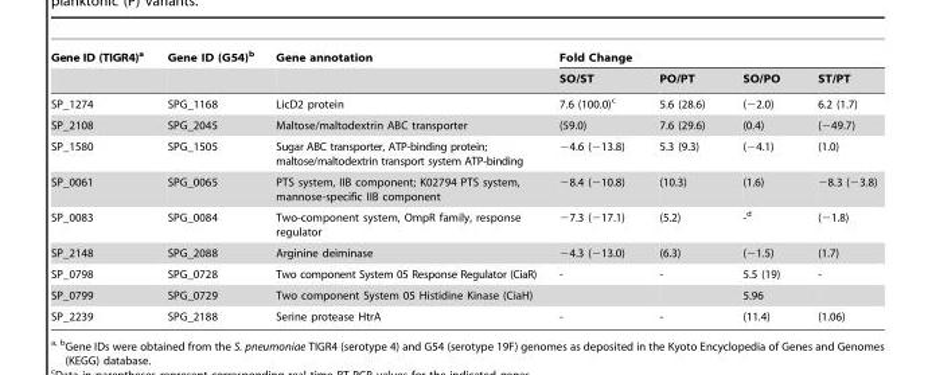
<table><thead><tr><td rowspan="2">Gene ID (TIGR4)<sup>a</sup></td><td rowspan="2">Gene ID (G54)<sup>b</sup></td><td rowspan="2">Gene annotation</td><td colspan="4">Fold Change</td></tr><tr><td>SO/ST</td><td>PO/PT</td><td>SO/PO</td><td>ST/PT</td></tr></thead><tbody><tr><td>SP_1274</td><td>SPG_1168</td><td>LicD2 protein</td><td>7.6 (100.0)<sup>c</sup></td><td>5.6 (28.6)</td><td>(−2.0)</td><td>6.2 (1.7)</td></tr><tr><td>SP_2108</td><td>SPG_2045</td><td>Maltose/maltodextrin ABC transporter</td><td>(59.0)</td><td>7.6 (29.6)</td><td>(0.4)</td><td>(−49.7)</td></tr><tr><td>SP_1580</td><td>SPG_1505</td><td>Sugar ABC transporter, ATP-binding protein; maltose/maltodextrin transport system ATP-binding</td><td>−4.6 (−13.8)</td><td>5.3 (9.3)</td><td>(−4.1)</td><td>(1.0)</td></tr><tr><td>SP_0061</td><td>SPG_0065</td><td>PTS system, IIB component; K02794 PTS system, mannose-specific IIB component</td><td>−8.4 (−10.8)</td><td>(10.3)</td><td>(1.6)</td><td>−8.3 (−3.8)</td></tr><tr><td>SP_0083</td><td>SPG_0084</td><td>Two-component system, OmpR family, response regulator</td><td>−7.3 (−17.1)</td><td>(5.2)</td><td>-d</td><td>(−1.8)</td></tr><tr><td>SP_2148</td><td>SPG_2088</td><td>Arginine deiminase</td><td>−4.3 (−13.0)</td><td>(6.3)</td><td>(−1.5)</td><td>(1.7)</td></tr><tr><td>SP_0798</td><td>SPG_0728</td><td>Two component System 05 Response Regulator (CiaR)</td><td>-</td><td>-</td><td>5.5 (19)</td><td>-</td></tr><tr><td>SP_0799</td><td>SPG_0729</td><td>Two component System 05 Histidine Kinase (CiaH)</td><td></td><td></td><td>5.96</td><td></td></tr><tr><td>SP_2239</td><td>SPG_2188</td><td>Serine protease HtrA</td><td>-</td><td>-</td><td>(11.4)</td><td>(1.06)</td></tr></tbody></table>